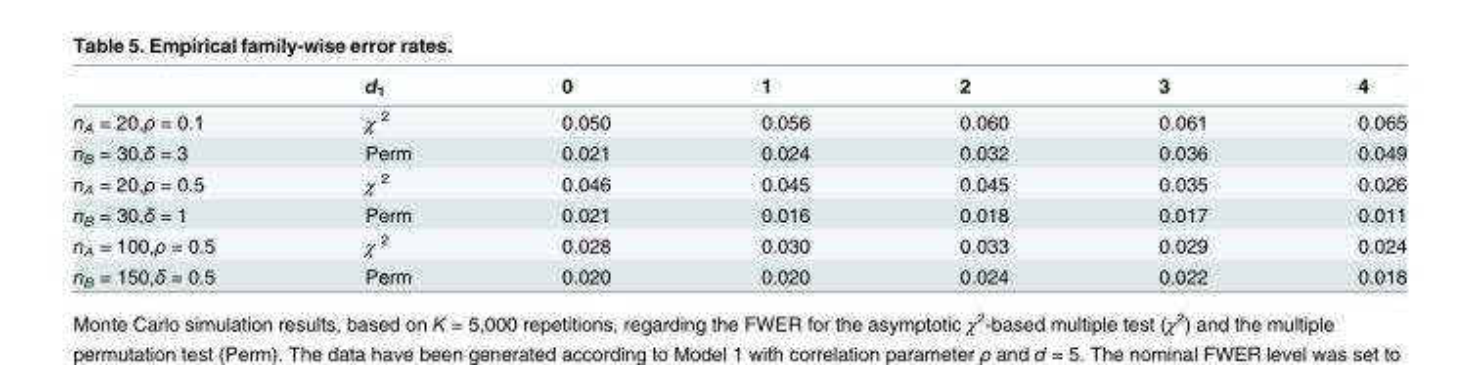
<table><thead><tr><td></td><td>d<sub>1</sub></td><td>0</td><td>1</td><td>2</td><td>3</td><td>4</td></tr></thead><tbody><tr><td>n<sub>A</sub> = 20,ρ = 0.1</td><td>χ <sup>2</sup></td><td>0.050</td><td>0.056</td><td>0.060</td><td>0.061</td><td>0.065</td></tr><tr><td>n<sub>B</sub> = 30,δ = 3</td><td>Perm</td><td>0.021</td><td>0.024</td><td>0.032</td><td>0.036</td><td>0.049</td></tr><tr><td>n<sub>A</sub> = 20,ρ = 0.5</td><td>χ <sup>2</sup></td><td>0.046</td><td>0.045</td><td>0.045</td><td>0.035</td><td>0.026</td></tr><tr><td>n<sub>B</sub> = 30,δ = 1</td><td>Perm</td><td>0.021</td><td>0.016</td><td>0.018</td><td>0.017</td><td>0.011</td></tr><tr><td>n<sub>A</sub> = 100,ρ = 0.5</td><td>χ <sup>2</sup></td><td>0.028</td><td>0.030</td><td>0.033</td><td>0.029</td><td>0.024</td></tr><tr><td>n<sub>B</sub> = 150,δ = 0.5</td><td>Perm</td><td>0.020</td><td>0.020</td><td>0.024</td><td>0.022</td><td>0.018</td></tr></tbody></table>